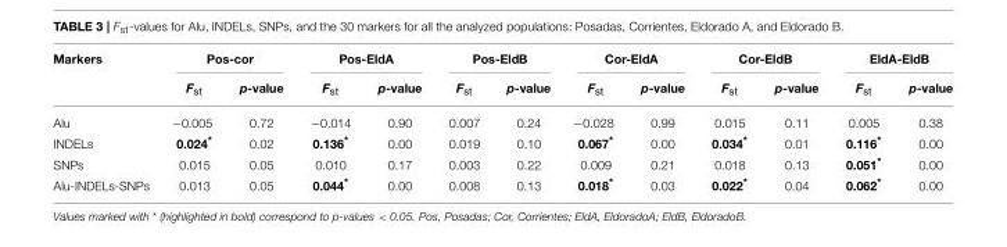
<table><thead><tr><td rowspan="2">Markers</td><td colspan="2">Pos-cor</td><td colspan="2">Pos-EldA</td><td colspan="2">Pos-EldB</td><td colspan="2">Cor-EldA</td><td colspan="2">Cor-EldB</td><td colspan="2">EldA-EldB</td></tr><tr><td>F<sub>st</sub></td><td>p-value</td><td>F<sub>st</sub></td><td>p-value</td><td>F<sub>st</sub></td><td>p-value</td><td>F<sub>st</sub></td><td>p-value</td><td>F<sub>st</sub></td><td>p-value</td><td>F<sub>st</sub></td><td>p-value</td></tr></thead><tbody><tr><td>Alu</td><td>−0.005</td><td>0.72</td><td>−0.014</td><td>0.90</td><td>0.007</td><td>0.24</td><td>−0.028</td><td>0.99</td><td>0.015</td><td>0.11</td><td>0.005</td><td>0.38</td></tr><tr><td>INDELs</td><td>0.024*</td><td>0.02</td><td>0.136*</td><td>0.00</td><td>0.019</td><td>0.10</td><td>0.067*</td><td>0.00</td><td>0.034*</td><td>0.01</td><td>0.116*</td><td>0.00</td></tr><tr><td>SNPs</td><td>0.015</td><td>0.05</td><td>0.010</td><td>0.17</td><td>0.003</td><td>0.22</td><td>0.009</td><td>0.21</td><td>0.018</td><td>0.13</td><td>0.051*</td><td>0.00</td></tr><tr><td>Alu-INDELs-SNPs</td><td>0.013</td><td>0.05</td><td>0.044*</td><td>0.00</td><td>0.008</td><td>0.13</td><td>0.018*</td><td>0.03</td><td>0.022*</td><td>0.04</td><td>0.062*</td><td>0.00</td></tr></tbody></table>